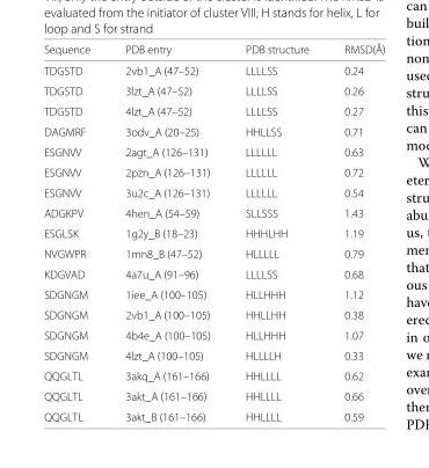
<table><thead><tr><td>Sequence</td><td>PDB entry</td><td>PDB structure</td><td>RMSD(Å)</td></tr></thead><tbody><tr><td>TDGSTD</td><td>2vb1_A (47–52)</td><td>LLLLSS</td><td>0.24</td></tr><tr><td>TDGSTD</td><td>3lzt_A (47–52)</td><td>LLLLSS</td><td>0.26</td></tr><tr><td>TDGSTD</td><td>4lzt_A (47–52)</td><td>LLLLSS</td><td>0.27</td></tr><tr><td>DAGMRF</td><td>3odv_A (20–25)</td><td>HHLLSS</td><td>0.71</td></tr><tr><td>ESGNVV</td><td>2agt_A (126–131)</td><td>LLLLLL</td><td>0.63</td></tr><tr><td>ESGNVV</td><td>2pzn_A (126–131)</td><td>LLLLLL</td><td>0.72</td></tr><tr><td>ESGNVV</td><td>3u2c_A (126–131)</td><td>LLLLLL</td><td>0.54</td></tr><tr><td>ADGKPV</td><td>4hen_A (54–59)</td><td>SLLSSS</td><td>1.43</td></tr><tr><td>ESGLSK</td><td>1g2y_B (18–23)</td><td>HHHLHH</td><td>1.19</td></tr><tr><td>NVGWPR</td><td>1mn8_B (47–52)</td><td>HLLLLL</td><td>0.79</td></tr><tr><td>KDGVAD</td><td>4a7u_A (91–96)</td><td>LLLLSS</td><td>0.68</td></tr><tr><td>SDGNGM</td><td>1iee_A (100–105)</td><td>HLLHHH</td><td>1.12</td></tr><tr><td>SDGNGM</td><td>2vb1_A (100–105)</td><td>HHLLHH</td><td>0.38</td></tr><tr><td>SDGNGM</td><td>4b4e_A (100–105)</td><td>HLLHHH</td><td>1.07</td></tr><tr><td>SDGNGM</td><td>4lzt_A (100–105)</td><td>HLLLLH</td><td>0.33</td></tr><tr><td>QQGLTL</td><td>3akq_A (161–166)</td><td>HHLLLL</td><td>0.62</td></tr><tr><td>QQGLTL</td><td>3akt_A (161–166)</td><td>HHLLLL</td><td>0.66</td></tr><tr><td>QQGLTL</td><td>3akt_B (161–166)</td><td>HHLLLL</td><td>0.59</td></tr></tbody></table>